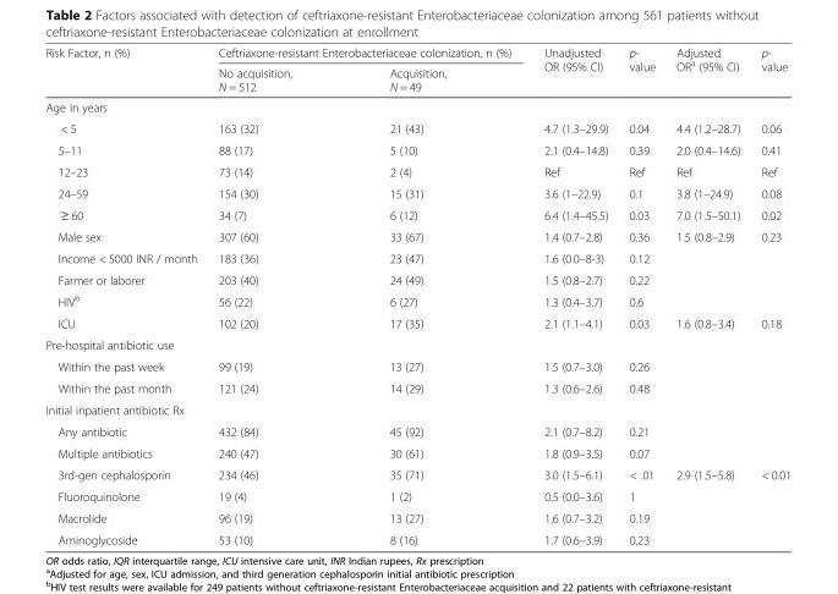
<table><thead><tr><td rowspan="2">Risk Factor, n (%)</td><td colspan="2">Ceftriaxone-resistant Enterobacteriaceae colonization, n (%)</td><td rowspan="2">Unadjusted OR (95% CI)</td><td rowspan="2">p- value</td><td rowspan="2">Adjusted OR<sup>a</sup> (95% CI)</td><td rowspan="2">p- value</td></tr><tr><td>No acquisition, N = 512</td><td>Acquisition, N = 49</td></tr></thead><tbody><tr><td colspan="7">Age in years</td></tr><tr><td>&lt; 5</td><td>163 (32)</td><td>21 (43)</td><td>4.7 (1.3–29.9)</td><td>0.04</td><td>4.4 (1.2–28.7)</td><td>0.06</td></tr><tr><td>5–11</td><td>88 (17)</td><td>5 (10)</td><td>2.1 (0.4–14.8)</td><td>0.39</td><td>2.0 (0.4–14.6)</td><td>0.41</td></tr><tr><td>12–23</td><td>73 (14)</td><td>2 (4)</td><td>Ref</td><td>Ref</td><td>Ref</td><td>Ref</td></tr><tr><td>24–59</td><td>154 (30)</td><td>15 (31)</td><td>3.6 (1–22.9)</td><td>0.1</td><td>3.8 (1–24.9)</td><td>0.08</td></tr><tr><td>≥ 60</td><td>34 (7)</td><td>6 (12)</td><td>6.4 (1.4–45.5)</td><td>0.03</td><td>7.0 (1.5–50.1)</td><td>0.02</td></tr><tr><td>Male sex</td><td>307 (60)</td><td>33 (67)</td><td>1.4 (0.7–2.8)</td><td>0.36</td><td>1.5 (0.8–2.9)</td><td>0.23</td></tr><tr><td>Income &lt; 5000 INR / month</td><td>183 (36)</td><td>23 (47)</td><td>1.6 (0.0–8-3)</td><td>0.12</td><td></td><td></td></tr><tr><td>Farmer or laborer</td><td>203 (40)</td><td>24 (49)</td><td>1.5 (0.8–2.7)</td><td>0.22</td><td></td><td></td></tr><tr><td>HIV<sup>b</sup></td><td>56 (22)</td><td>6 (27)</td><td>1.3 (0.4–3.7)</td><td>0.6</td><td></td><td></td></tr><tr><td>ICU</td><td>102 (20)</td><td>17 (35)</td><td>2.1 (1.1–4.1)</td><td>0.03</td><td>1.6 (0.8–3.4)</td><td>0.18</td></tr><tr><td colspan="7">Pre-hospital antibiotic use</td></tr><tr><td>Within the past week</td><td>99 (19)</td><td>13 (27)</td><td>1.5 (0.7–3.0)</td><td>0.26</td><td></td><td></td></tr><tr><td>Within the past month</td><td>121 (24)</td><td>14 (29)</td><td>1.3 (0.6–2.6)</td><td>0.48</td><td></td><td></td></tr><tr><td colspan="7">Initial inpatient antibiotic Rx</td></tr><tr><td>Any antibiotic</td><td>432 (84)</td><td>45 (92)</td><td>2.1 (0.7–8.2)</td><td>0.21</td><td></td><td></td></tr><tr><td>Multiple antibiotics</td><td>240 (47)</td><td>30 (61)</td><td>1.8 (0.9–3.5)</td><td>0.07</td><td></td><td></td></tr><tr><td>3rd-gen cephalosporin</td><td>234 (46)</td><td>35 (71)</td><td>3.0 (1.5–6.1)</td><td>&lt; .01</td><td>2.9 (1.5–5.8)</td><td>&lt; 0.01</td></tr><tr><td>Fluoroquinolone</td><td>19 (4)</td><td>1 (2)</td><td>0.5 (0.0–3.6)</td><td>1</td><td></td><td></td></tr><tr><td>Macrolide</td><td>96 (19)</td><td>13 (27)</td><td>1.6 (0.7–3.2)</td><td>0.19</td><td></td><td></td></tr><tr><td>Aminoglycoside</td><td>53 (10)</td><td>8 (16)</td><td>1.7 (0.6–3.9)</td><td>0.23</td><td></td><td></td></tr></tbody></table>